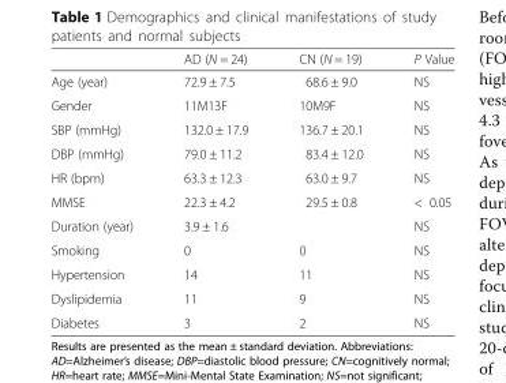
<table><thead><tr><td></td><td>AD (N = 24)</td><td>CN (N = 19)</td><td>P Value</td></tr></thead><tbody><tr><td>Age (year)</td><td>72.9 ± 7.5</td><td>68.6 ± 9.0</td><td>NS</td></tr><tr><td>Gender</td><td>11M13F</td><td>10M9F</td><td>NS</td></tr><tr><td>SBP (mmHg)</td><td>132.0 ± 17.9</td><td>136.7 ± 20.1</td><td>NS</td></tr><tr><td>DBP (mmHg)</td><td>79.0 ± 11.2</td><td>83.4 ± 12.0</td><td>NS</td></tr><tr><td>HR (bpm)</td><td>63.3 ± 12.3</td><td>63.0 ± 9.7</td><td>NS</td></tr><tr><td>MMSE</td><td>22.3 ± 4.2</td><td>29.5 ± 0.8</td><td>&lt; 0.05</td></tr><tr><td>Duration (year)</td><td>3.9 ± 1.6</td><td></td><td>NS</td></tr><tr><td>Smoking</td><td>0</td><td>0</td><td>NS</td></tr><tr><td>Hypertension</td><td>14</td><td>11</td><td>NS</td></tr><tr><td>Dyslipidemia</td><td>11</td><td>9</td><td>NS</td></tr><tr><td>Diabetes</td><td>3</td><td>2</td><td>NS</td></tr></tbody></table>